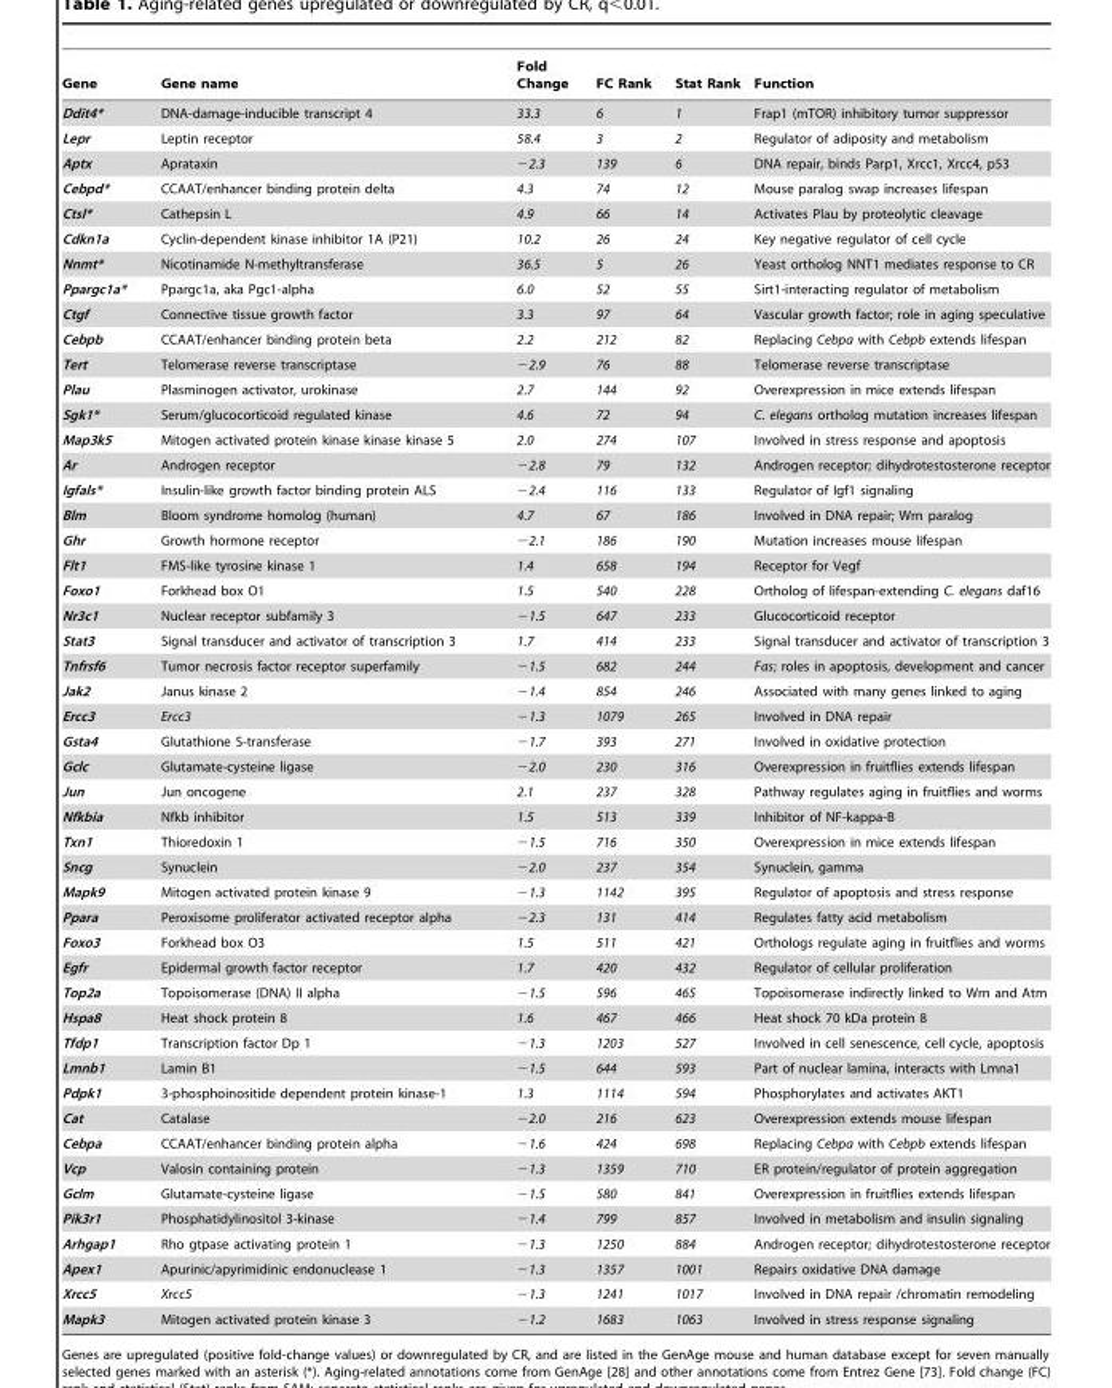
<table><thead><tr><td>Gene</td><td>Gene name</td><td>Fold Change</td><td>FC Rank</td><td>Stat Rank</td><td>Function</td></tr></thead><tbody><tr><td>Ddit4*</td><td>DNA-damage-inducible transcript 4</td><td>33.3</td><td>6</td><td>1</td><td>Frap1 (mTOR) inhibitory tumor suppressor</td></tr><tr><td>Lepr</td><td>Leptin receptor</td><td>58.4</td><td>3</td><td>2</td><td>Regulator of adiposity and metabolism</td></tr><tr><td>Aptx</td><td>Aprataxin</td><td>−2.3</td><td>139</td><td>6</td><td>DNA repair, binds Parp1, Xrcc1, Xrcc4, p53</td></tr><tr><td>Cebpd*</td><td>CCAAT/enhancer binding protein delta</td><td>4.3</td><td>74</td><td>12</td><td>Mouse paralog swap increases lifespan</td></tr><tr><td>Ctsl*</td><td>Cathepsin L</td><td>4.9</td><td>66</td><td>14</td><td>Activates Plau by proteolytic cleavage</td></tr><tr><td>Cdkn1a</td><td>Cyclin-dependent kinase inhibitor 1A (P21)</td><td>10.2</td><td>26</td><td>24</td><td>Key negative regulator of cell cycle</td></tr><tr><td>Nnmt*</td><td>Nicotinamide N-methyltransferase</td><td>36.5</td><td>5</td><td>26</td><td>Yeast ortholog NNT1 mediates response to CR</td></tr><tr><td>Ppargc1a*</td><td>Ppargc1a, aka Pgc1-alpha</td><td>6.0</td><td>52</td><td>55</td><td>Sirt1-interacting regulator of metabolism</td></tr><tr><td>Ctgf</td><td>Connective tissue growth factor</td><td>3.3</td><td>97</td><td>64</td><td>Vascular growth factor; role in aging speculative</td></tr><tr><td>Cebpb</td><td>CCAAT/enhancer binding protein beta</td><td>2.2</td><td>212</td><td>82</td><td>Replacing Cebpa with Cebpb extends lifespan</td></tr><tr><td>Tert</td><td>Telomerase reverse transcriptase</td><td>−2.9</td><td>76</td><td>88</td><td>Telomerase reverse transcriptase</td></tr><tr><td>Plau</td><td>Plasminogen activator, urokinase</td><td>2.7</td><td>144</td><td>92</td><td>Overexpression in mice extends lifespan</td></tr><tr><td>Sgk1*</td><td>Serum/glucocorticoid regulated kinase</td><td>4.6</td><td>72</td><td>94</td><td>C. elegans ortholog mutation increases lifespan</td></tr><tr><td>Map3k5</td><td>Mitogen activated protein kinase kinase kinase 5</td><td>2.0</td><td>274</td><td>107</td><td>Involved in stress response and apoptosis</td></tr><tr><td>Ar</td><td>Androgen receptor</td><td>−2.8</td><td>79</td><td>132</td><td>Androgen receptor; dihydrotestosterone receptor</td></tr><tr><td>Igfals*</td><td>Insulin-like growth factor binding protein ALS</td><td>−2.4</td><td>116</td><td>133</td><td>Regulator of Igf1 signaling</td></tr><tr><td>Blm</td><td>Bloom syndrome homolog (human)</td><td>4.7</td><td>67</td><td>186</td><td>Involved in DNA repair; Wrn paralog</td></tr><tr><td>Ghr</td><td>Growth hormone receptor</td><td>−2.1</td><td>186</td><td>190</td><td>Mutation increases mouse lifespan</td></tr><tr><td>Flt1</td><td>FMS-like tyrosine kinase 1</td><td>1.4</td><td>658</td><td>194</td><td>Receptor for Vegf</td></tr><tr><td>Foxo1</td><td>Forkhead box O1</td><td>1.5</td><td>540</td><td>228</td><td>Ortholog of lifespan-extending C. elegans daf16</td></tr><tr><td>Nr3c1</td><td>Nuclear receptor subfamily 3</td><td>−1.5</td><td>647</td><td>233</td><td>Glucocorticoid receptor</td></tr><tr><td>Stat3</td><td>Signal transducer and activator of transcription 3</td><td>1.7</td><td>414</td><td>233</td><td>Signal transducer and activator of transcription 3</td></tr><tr><td>Tnfrsf6</td><td>Tumor necrosis factor receptor superfamily</td><td>−1.5</td><td>682</td><td>244</td><td>Fas; roles in apoptosis, development and cancer</td></tr><tr><td>Jak2</td><td>Janus kinase 2</td><td>−1.4</td><td>854</td><td>246</td><td>Associated with many genes linked to aging</td></tr><tr><td>Ercc3</td><td>Ercc3</td><td>−1.3</td><td>1079</td><td>265</td><td>Involved in DNA repair</td></tr><tr><td>Gsta4</td><td>Glutathione S-transferase</td><td>−1.7</td><td>393</td><td>271</td><td>Involved in oxidative protection</td></tr><tr><td>Gclc</td><td>Glutamate-cysteine ligase</td><td>−2.0</td><td>230</td><td>316</td><td>Overexpression in fruitflies extends lifespan</td></tr><tr><td>Jun</td><td>Jun oncogene</td><td>2.1</td><td>237</td><td>328</td><td>Pathway regulates aging in fruitflies and worms</td></tr><tr><td>Nfkbia</td><td>Nfkb inhibitor</td><td>1.5</td><td>513</td><td>339</td><td>Inhibitor of NF-kappa-B</td></tr><tr><td>Txn1</td><td>Thioredoxin 1</td><td>−1.5</td><td>716</td><td>350</td><td>Overexpression in mice extends lifespan</td></tr><tr><td>Sncg</td><td>Synuclein</td><td>−2.0</td><td>237</td><td>354</td><td>Synuclein, gamma</td></tr><tr><td>Mapk9</td><td>Mitogen activated protein kinase 9</td><td>−1.3</td><td>1142</td><td>395</td><td>Regulator of apoptosis and stress response</td></tr><tr><td>Ppara</td><td>Peroxisome proliferator activated receptor alpha</td><td>−2.3</td><td>131</td><td>414</td><td>Regulates fatty acid metabolism</td></tr><tr><td>Foxo3</td><td>Forkhead box O3</td><td>1.5</td><td>511</td><td>421</td><td>Orthologs regulate aging in fruitflies and worms</td></tr><tr><td>Egfr</td><td>Epidermal growth factor receptor</td><td>1.7</td><td>420</td><td>432</td><td>Regulator of cellular proliferation</td></tr><tr><td>Top2a</td><td>Topoisomerase (DNA) II alpha</td><td>−1.5</td><td>596</td><td>465</td><td>Topoisomerase indirectly linked to Wrn and Atm</td></tr><tr><td>Hspa8</td><td>Heat shock protein 8</td><td>1.6</td><td>467</td><td>466</td><td>Heat shock 70 kDa protein 8</td></tr><tr><td>Tfdp1</td><td>Transcription factor Dp 1</td><td>−1.3</td><td>1203</td><td>527</td><td>Involved in cell senescence, cell cycle, apoptosis</td></tr><tr><td>Lmnb1</td><td>Lamin B1</td><td>−1.5</td><td>644</td><td>593</td><td>Part of nuclear lamina, interacts with Lmna1</td></tr><tr><td>Pdpk1</td><td>3-phosphoinositide dependent protein kinase-1</td><td>1.3</td><td>1114</td><td>594</td><td>Phosphorylates and activates AKT1</td></tr><tr><td>Cat</td><td>Catalase</td><td>−2.0</td><td>216</td><td>623</td><td>Overexpression extends mouse lifespan</td></tr><tr><td>Cebpa</td><td>CCAAT/enhancer binding protein alpha</td><td>−1.6</td><td>424</td><td>698</td><td>Replacing Cebpa with Cebpb extends lifespan</td></tr><tr><td>Vcp</td><td>Valosin containing protein</td><td>−1.3</td><td>1359</td><td>710</td><td>ER protein/regulator of protein aggregation</td></tr><tr><td>Gclm</td><td>Glutamate-cysteine ligase</td><td>−1.5</td><td>580</td><td>841</td><td>Overexpression in fruitflies extends lifespan</td></tr><tr><td>Pik3r1</td><td>Phosphatidylinositol 3-kinase</td><td>−1.4</td><td>799</td><td>857</td><td>Involved in metabolism and insulin signaling</td></tr><tr><td>Arhgap1</td><td>Rho gtpase activating protein 1</td><td>−1.3</td><td>1250</td><td>884</td><td>Androgen receptor; dihydrotestosterone receptor</td></tr><tr><td>Apex1</td><td>Apurinic/apyrimidinic endonuclease 1</td><td>−1.3</td><td>1357</td><td>1001</td><td>Repairs oxidative DNA damage</td></tr><tr><td>Xrcc5</td><td>Xrcc5</td><td>−1.3</td><td>1241</td><td>1017</td><td>Involved in DNA repair /chromatin remodeling</td></tr><tr><td>Mapk3</td><td>Mitogen activated protein kinase 3</td><td>−1.2</td><td>1683</td><td>1063</td><td>Involved in stress response signaling</td></tr></tbody></table>